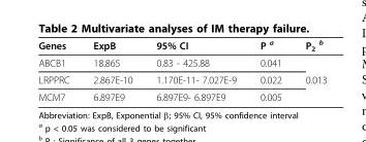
<table><thead><tr><td>Genes</td><td>ExpB</td><td>95% CI</td><td>P <sup>a</sup></td><td>P<sub>2</sub> <sup>b</sup></td></tr></thead><tbody><tr><td>ABCB1</td><td>18.865</td><td>0.83 - 425.88</td><td>0.041</td><td></td></tr><tr><td>LRPPRC</td><td>2.867E-10</td><td>1.170E-11- 7.027E-9</td><td>0.022</td><td>0.013</td></tr><tr><td>MCM7</td><td>6.897E9</td><td>6.897E9- 6.897E9</td><td>0.005</td><td></td></tr></tbody></table>